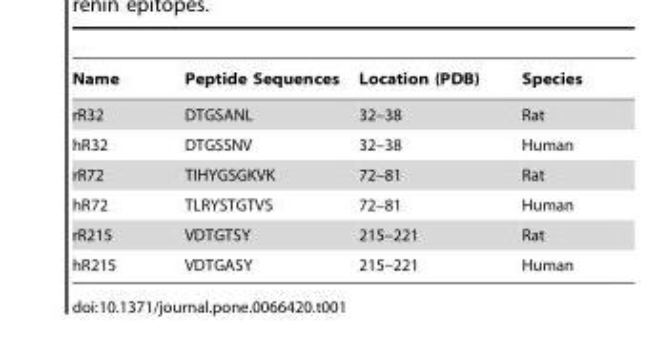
<table><thead><tr><td>Name</td><td>Peptide Sequences</td><td>Location (PDB)</td><td>Species</td></tr></thead><tbody><tr><td>rR32</td><td>DTGSANL</td><td>32–38</td><td>Rat</td></tr><tr><td>hR32</td><td>DTGSSNV</td><td>32–38</td><td>Human</td></tr><tr><td>rR72</td><td>TIHYGSGKVK</td><td>72–81</td><td>Rat</td></tr><tr><td>hR72</td><td>TLRYSTGTVS</td><td>72–81</td><td>Human</td></tr><tr><td>rR215</td><td>VDTGTSY</td><td>215–221</td><td>Rat</td></tr><tr><td>hR215</td><td>VDTGASY</td><td>215–221</td><td>Human</td></tr></tbody></table>